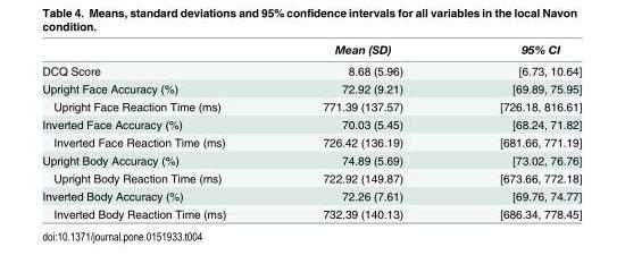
<table><thead><tr><td></td><td>Mean (SD)</td><td>95% CI</td></tr></thead><tbody><tr><td>DCQ Score</td><td>8.68 (5.96)</td><td>[6.73, 10.64]</td></tr><tr><td>Upright Face Accuracy (%)</td><td>72.92 (9.21)</td><td>[69.89, 75.95]</td></tr><tr><td>Upright Face Reaction Time (ms)</td><td>771.39 (137.57)</td><td>[726.18, 816.61]</td></tr><tr><td>Inverted Face Accuracy (%)</td><td>70.03 (5.45)</td><td>[68.24, 71.82]</td></tr><tr><td>Inverted Face Reaction Time (ms)</td><td>726.42 (136.19)</td><td>[681.66, 771.19]</td></tr><tr><td>Upright Body Accuracy (%)</td><td>74.89 (5.69)</td><td>[73.02, 76.76]</td></tr><tr><td>Upright Body Reaction Time (ms)</td><td>722.92 (149.87)</td><td>[673.66, 772.18]</td></tr><tr><td>Inverted Body Accuracy (%)</td><td>72.26 (7.61)</td><td>[69.76, 74.77]</td></tr><tr><td>Inverted Body Reaction Time (ms)</td><td>732.39 (140.13)</td><td>[686.34, 778.45]</td></tr></tbody></table>